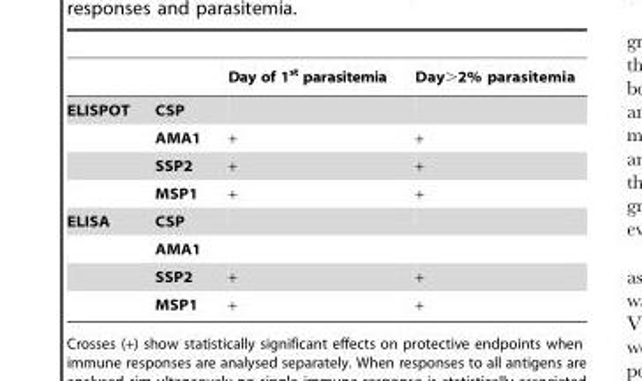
<table><thead><tr><td></td><td></td><td>Day of 1<sup>st</sup> parasitemia</td><td>Day&gt;2% parasitemia</td></tr></thead><tbody><tr><td rowspan="4">ELISPOT</td><td>CSP</td><td></td><td></td></tr><tr><td>AMA1</td><td>+</td><td>+</td></tr><tr><td>SSP2</td><td>+</td><td>+</td></tr><tr><td>MSP1</td><td>+</td><td>+</td></tr><tr><td rowspan="4">ELISA</td><td>CSP</td><td></td><td></td></tr><tr><td>AMA1</td><td></td><td></td></tr><tr><td>SSP2</td><td>+</td><td>+</td></tr><tr><td>MSP1</td><td>+</td><td>+</td></tr></tbody></table>